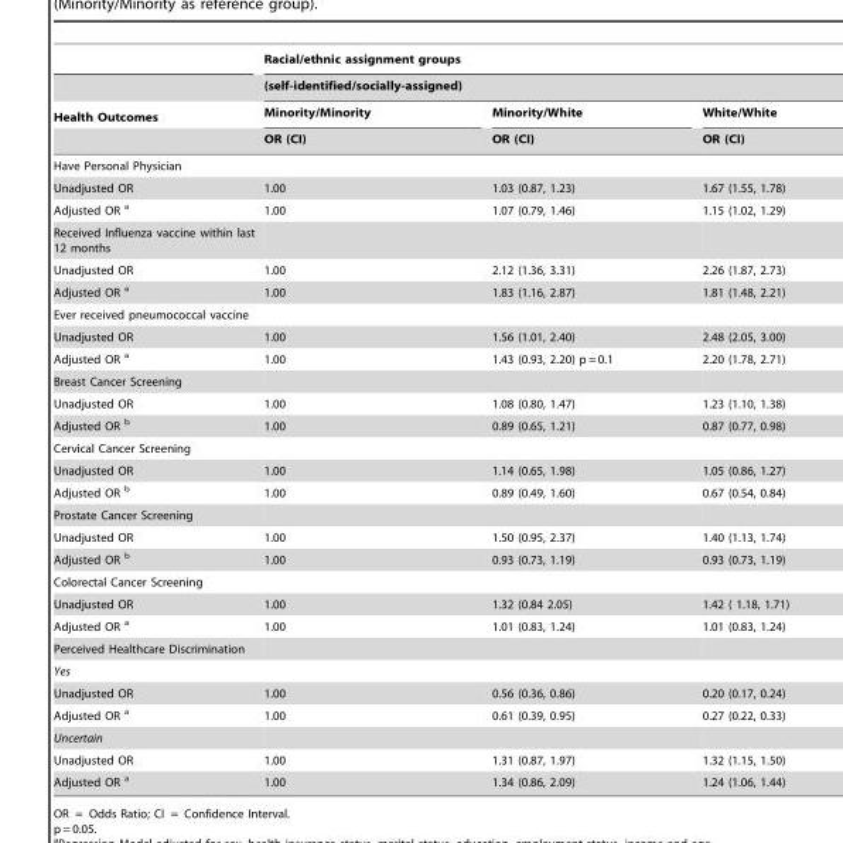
<table><thead><tr><td rowspan="4">Health Outcomes</td><td rowspan="2" colspan="3">Racial/ethnic assignment groups (self-identified/socially-assigned)</td></tr><tr></tr><tr><td rowspan="2">Minority/Minority OR (CI)</td><td rowspan="2">Minority/White OR (CI)</td><td rowspan="2">White/White OR (CI)</td></tr><tr></tr></thead><tbody><tr><td colspan="4">Have Personal Physician</td></tr><tr><td>Unadjusted OR</td><td>1.00</td><td>1.03 (0.87, 1.23)</td><td>1.67 (1.55, 1.78)</td></tr><tr><td>Adjusted OR a</td><td>1.00</td><td>1.07 (0.79, 1.46)</td><td>1.15 (1.02, 1.29)</td></tr><tr><td colspan="4">Received Influenza vaccine within last 12 months</td></tr><tr><td>Unadjusted OR</td><td>1.00</td><td>2.12 (1.36, 3.31)</td><td>2.26 (1.87, 2.73)</td></tr><tr><td>Adjusted OR a</td><td>1.00</td><td>1.83 (1.16, 2.87)</td><td>1.81 (1.48, 2.21)</td></tr><tr><td colspan="4">Ever received pneumococcal vaccine</td></tr><tr><td>Unadjusted OR</td><td>1.00</td><td>1.56 (1.01, 2.40)</td><td>2.48 (2.05, 3.00)</td></tr><tr><td>Adjusted OR a</td><td>1.00</td><td>1.43 (0.93, 2.20) p = 0.1</td><td>2.20 (1.78, 2.71)</td></tr><tr><td colspan="4">Breast Cancer Screening</td></tr><tr><td>Unadjusted OR</td><td>1.00</td><td>1.08 (0.80, 1.47)</td><td>1.23 (1.10, 1.38)</td></tr><tr><td>Adjusted OR b</td><td>1.00</td><td>0.89 (0.65, 1.21)</td><td>0.87 (0.77, 0.98)</td></tr><tr><td colspan="4">Cervical Cancer Screening</td></tr><tr><td>Unadjusted OR</td><td>1.00</td><td>1.14 (0.65, 1.98)</td><td>1.05 (0.86, 1.27)</td></tr><tr><td>Adjusted OR b</td><td>1.00</td><td>0.89 (0.49, 1.60)</td><td>0.67 (0.54, 0.84)</td></tr><tr><td colspan="4">Prostate Cancer Screening</td></tr><tr><td>Unadjusted OR</td><td>1.00</td><td>1.50 (0.95, 2.37)</td><td>1.40 (1.13, 1.74)</td></tr><tr><td>Adjusted OR b</td><td>1.00</td><td>0.93 (0.73, 1.19)</td><td>0.93 (0.73, 1.19)</td></tr><tr><td colspan="4">Colorectal Cancer Screening</td></tr><tr><td>Unadjusted OR</td><td>1.00</td><td>1.32 (0.84 2.05)</td><td>1.42 ( 1.18, 1.71)</td></tr><tr><td>Adjusted OR a</td><td>1.00</td><td>1.01 (0.83, 1.24)</td><td>1.01 (0.83, 1.24)</td></tr><tr><td colspan="4">Perceived Healthcare Discrimination</td></tr><tr><td colspan="4">Yes</td></tr><tr><td>Unadjusted OR</td><td>1.00</td><td>0.56 (0.36, 0.86)</td><td>0.20 (0.17, 0.24)</td></tr><tr><td>Adjusted OR a</td><td>1.00</td><td>0.61 (0.39, 0.95)</td><td>0.27 (0.22, 0.33)</td></tr><tr><td colspan="4">Uncertain</td></tr><tr><td>Unadjusted OR</td><td>1.00</td><td>1.31 (0.87, 1.97)</td><td>1.32 (1.15, 1.50)</td></tr><tr><td>Adjusted OR a</td><td>1.00</td><td>1.34 (0.86, 2.09)</td><td>1.24 (1.06, 1.44)</td></tr></tbody></table>